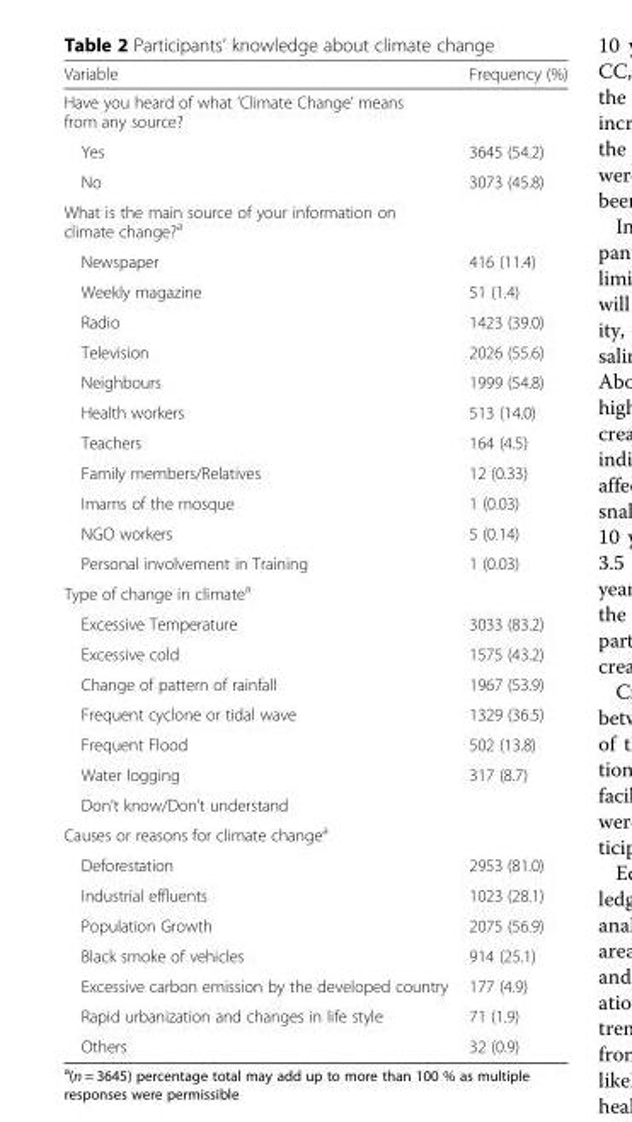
<table><thead><tr><td>Variable</td><td>Frequency (%)</td></tr></thead><tbody><tr><td colspan="2">Have you heard of what ‘Climate Change’ means from any source?</td></tr><tr><td>Yes</td><td>3645 (54.2)</td></tr><tr><td>No</td><td>3073 (45.8)</td></tr><tr><td colspan="2">What is the main source of your information on climate change?<sup>a</sup></td></tr><tr><td>Newspaper</td><td>416 (11.4)</td></tr><tr><td>Weekly magazine</td><td>51 (1.4)</td></tr><tr><td>Radio</td><td>1423 (39.0)</td></tr><tr><td>Television</td><td>2026 (55.6)</td></tr><tr><td>Neighbours</td><td>1999 (54.8)</td></tr><tr><td>Health workers</td><td>513 (14.0)</td></tr><tr><td>Teachers</td><td>164 (4.5)</td></tr><tr><td>Family members/Relatives</td><td>12 (0.33)</td></tr><tr><td>Imams of the mosque</td><td>1 (0.03)</td></tr><tr><td>NGO workers</td><td>5 (0.14)</td></tr><tr><td>Personal involvement in Training</td><td>1 (0.03)</td></tr><tr><td colspan="2">Type of change in climate<sup>a</sup></td></tr><tr><td>Excessive Temperature</td><td>3033 (83.2)</td></tr><tr><td>Excessive cold</td><td>1575 (43.2)</td></tr><tr><td>Change of pattern of rainfall</td><td>1967 (53.9)</td></tr><tr><td>Frequent cyclone or tidal wave</td><td>1329 (36.5)</td></tr><tr><td>Frequent Flood</td><td>502 (13.8)</td></tr><tr><td>Water logging</td><td>317 (8.7)</td></tr><tr><td colspan="2">Don’t know/Don’t understand</td></tr><tr><td colspan="2">Causes or reasons for climate change<sup>a</sup></td></tr><tr><td>Deforestation</td><td>2953 (81.0)</td></tr><tr><td>Industrial effluents</td><td>1023 (28.1)</td></tr><tr><td>Population Growth</td><td>2075 (56.9)</td></tr><tr><td>Black smoke of vehicles</td><td>914 (25.1)</td></tr><tr><td>Excessive carbon emission by the developed country</td><td>177 (4.9)</td></tr><tr><td>Rapid urbanization and changes in life style</td><td>71 (1.9)</td></tr><tr><td>Others</td><td>32 (0.9)</td></tr></tbody></table>